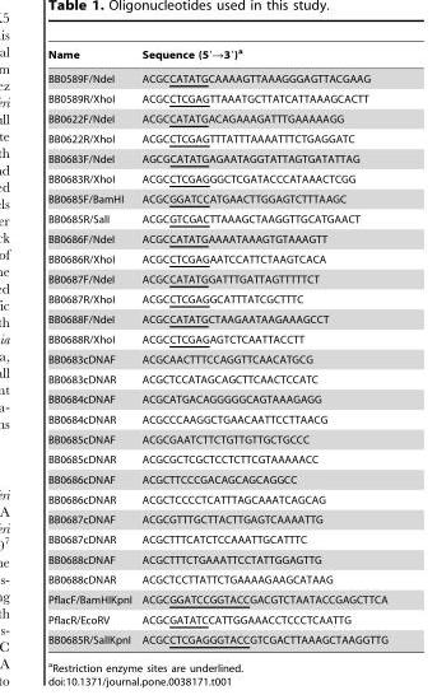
<table><thead><tr><td>Name</td><td>Sequence (5′→3′)<sup>a</sup></td></tr></thead><tbody><tr><td>BB0589F/NdeI</td><td>ACGCCATATGCAAAAGTTAAAGGGAGTTACGAAG</td></tr><tr><td>BB0589R/XhoI</td><td>ACGCCTCGAGTTAAATGCTTATCATTAAAGCACTT</td></tr><tr><td>BB0622F/NdeI</td><td>ACGCCATATGACAGAAAGATTTGAAAAAGG</td></tr><tr><td>BB0622R/XhoI</td><td>ACGCCTCGAGTTTATTTAAAATTTCTGAGGATC</td></tr><tr><td>BB0683F/NdeI</td><td>AGCGCATATGAGAATAGGTATTAGTGATATTAG</td></tr><tr><td>BB0683R/XhoI</td><td>ACGCCTCGAGGGCTCGATACCCATAAACTCGG</td></tr><tr><td>BB0685F/BamHI</td><td>ACGCGGATCCATGAACTTGGAGTCTTTAAGC</td></tr><tr><td>BB0685R/SalI</td><td>ACGCGTCGACTTAAAGCTAAGGTTGCATGAACT</td></tr><tr><td>BB0686F/NdeI</td><td>ACGCCATATGAAAATAAAGTGTAAAGTT</td></tr><tr><td>BB0686R/XhoI</td><td>ACGCCTCGAGAATCCATTCTAAGTCACA</td></tr><tr><td>BB0687F/NdeI</td><td>ACGCCATATGGATTTGATTAGTTTTTCT</td></tr><tr><td>BB0687R/XhoI</td><td>ACGCCTCGAGGCATTTATCGCTTTC</td></tr><tr><td>BB0688F/NdeI</td><td>ACGCCATATGCTAAGAATAAGAAAGCCT</td></tr><tr><td>BB0688R/XhoI</td><td>ACGCCTCGAGAGTCTCAATTACCTT</td></tr><tr><td>BB0683cDNAF</td><td>ACGCAACTTTCCAGGTTCAACATGCG</td></tr><tr><td>BB0683cDNAR</td><td>ACGCTCCATAGCAGCTTCAACTCCATC</td></tr><tr><td>BB0684cDNAF</td><td>ACGCATGACAGGGGGCAGTAAAGAGG</td></tr><tr><td>BB0684cDNAR</td><td>ACGCCCAAGGCTGAACAATTCCTTAACG</td></tr><tr><td>BB0685cDNAF</td><td>ACGCGAATCTTCTGTTGTTGCTGCCC</td></tr><tr><td>BB0685cDNAR</td><td>ACGCGCTCGCTCCTCTTCGTAAAAACC</td></tr><tr><td>BB0686cDNAF</td><td>ACGCTTCCCGACAGCAGCAGGCC</td></tr><tr><td>BB0686cDNAR</td><td>ACGCTCCCCTCATTTAGCAAATCAGCAG</td></tr><tr><td>BB0687cDNAF</td><td>ACGCGTTTGCTTACTTGAGTCAAAATTG</td></tr><tr><td>BB0687cDNAR</td><td>ACGCTTTCATCTCCAAATTGCATTTC</td></tr><tr><td>BB0688cDNAF</td><td>ACGCTTTCTGAAATTCCTATTGGAGTTG</td></tr><tr><td>BB0688cDNAR</td><td>ACGCTCCTTATTCTGAAAAGAAGCATAAG</td></tr><tr><td>PflacF/BamHIKpnI</td><td>ACGCGGATCCGGTACCGACGTCTAATACCGAGCTTCA</td></tr><tr><td>PflacR/EcoRV</td><td>ACGCGATATCCATTGGAAACCTCCCTCAATTG</td></tr><tr><td>BB0685R/SalIKpnI</td><td>ACGCCTCGAGGGTACCGTCGACTTAAAGCTAAGGTTG</td></tr></tbody></table>